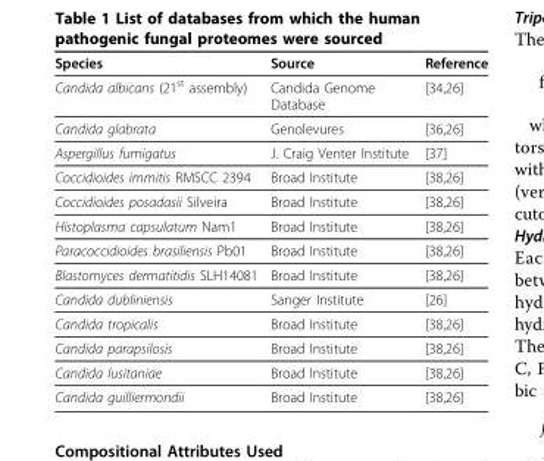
<table><thead><tr><td>Species</td><td>Source</td><td>Reference</td></tr></thead><tbody><tr><td>Candida albicans (21<sup>st</sup> assembly)</td><td>Candida Genome Database</td><td>[34,26]</td></tr><tr><td>Candida glabrata</td><td>Genolevures</td><td>[36,26]</td></tr><tr><td>Aspergillus fumigatus</td><td>J. Craig Venter Institute</td><td>[37]</td></tr><tr><td>Coccidioides immitis RMSCC 2394</td><td>Broad Institute</td><td>[38,26]</td></tr><tr><td>Coccidioides posadasii Silveira</td><td>Broad Institute</td><td>[38,26]</td></tr><tr><td>Histoplasma capsulatum Nam1</td><td>Broad Institute</td><td>[38,26]</td></tr><tr><td>Paracoccidioides brasiliensis Pb01</td><td>Broad Institute</td><td>[38,26]</td></tr><tr><td>Blastomyces dermatitidis SLH14081</td><td>Broad Institute</td><td>[38,26]</td></tr><tr><td>Candida dubliniensis</td><td>Sanger Institute</td><td>[26]</td></tr><tr><td>Candida tropicalis</td><td>Broad Institute</td><td>[38,26]</td></tr><tr><td>Candida parapsilosis</td><td>Broad Institute</td><td>[38,26]</td></tr><tr><td>Candida lusitaniae</td><td>Broad Institute</td><td>[38,26]</td></tr><tr><td>Candida guilliermondii</td><td>Broad Institute</td><td>[38,26]</td></tr></tbody></table>